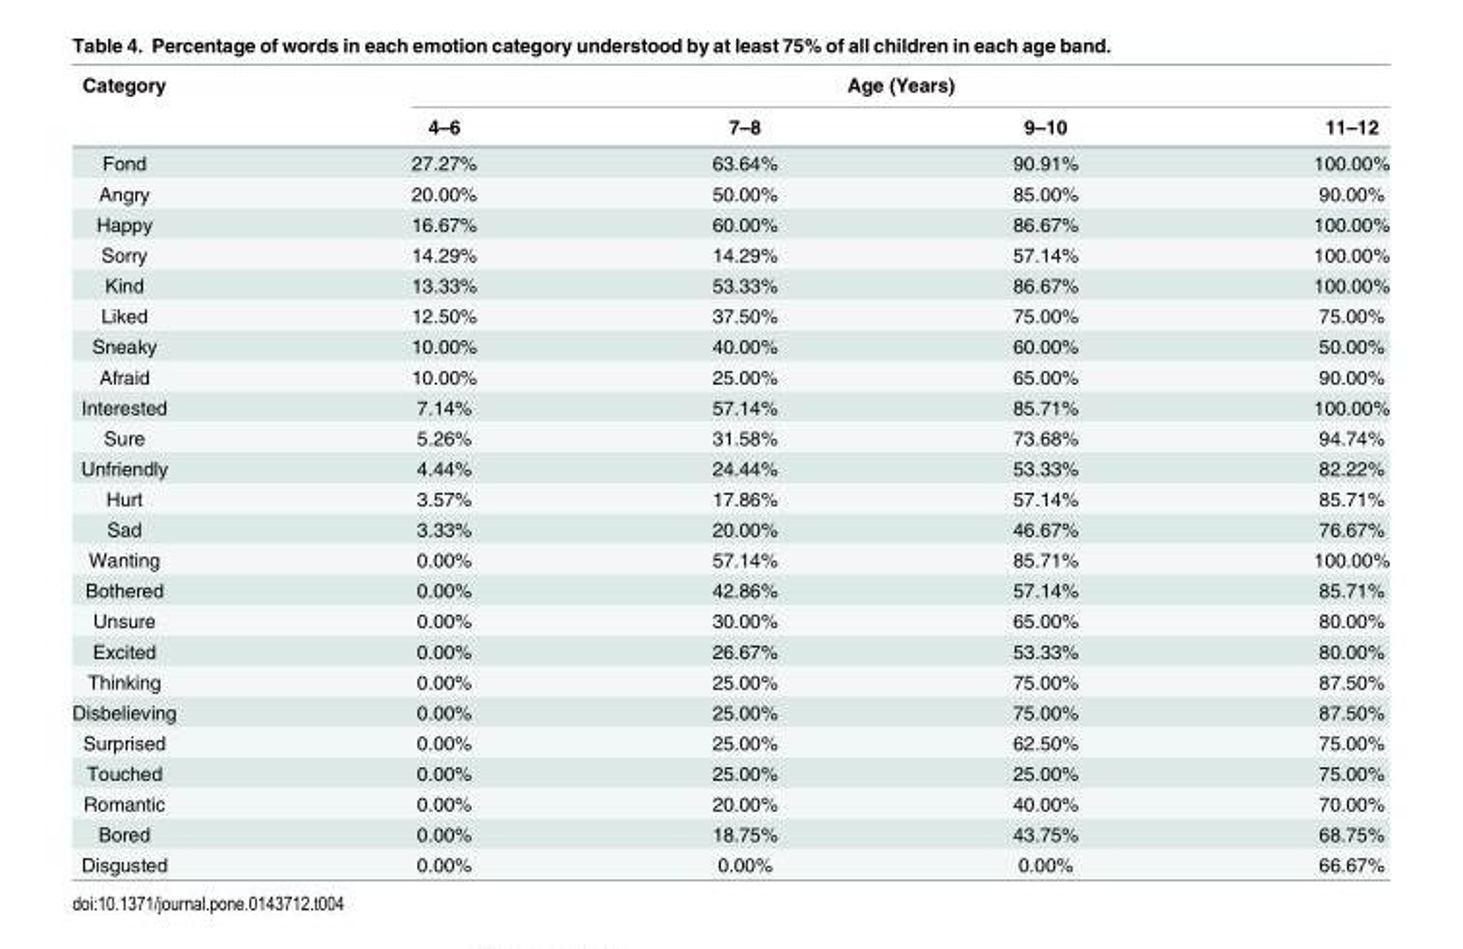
<table><thead><tr><td rowspan="2">Category</td><td colspan="4">Age (Years)</td></tr><tr><td>4–6</td><td>7–8</td><td>9–10</td><td>11–12</td></tr></thead><tbody><tr><td>Fond</td><td>27.27%</td><td>63.64%</td><td>90.91%</td><td>100.00%</td></tr><tr><td>Angry</td><td>20.00%</td><td>50.00%</td><td>85.00%</td><td>90.00%</td></tr><tr><td>Happy</td><td>16.67%</td><td>60.00%</td><td>86.67%</td><td>100.00%</td></tr><tr><td>Sorry</td><td>14.29%</td><td>14.29%</td><td>57.14%</td><td>100.00%</td></tr><tr><td>Kind</td><td>13.33%</td><td>53.33%</td><td>86.67%</td><td>100.00%</td></tr><tr><td>Liked</td><td>12.50%</td><td>37.50%</td><td>75.00%</td><td>75.00%</td></tr><tr><td>Sneaky</td><td>10.00%</td><td>40.00%</td><td>60.00%</td><td>50.00%</td></tr><tr><td>Afraid</td><td>10.00%</td><td>25.00%</td><td>65.00%</td><td>90.00%</td></tr><tr><td>Interested</td><td>7.14%</td><td>57.14%</td><td>85.71%</td><td>100.00%</td></tr><tr><td>Sure</td><td>5.26%</td><td>31.58%</td><td>73.68%</td><td>94.74%</td></tr><tr><td>Unfriendly</td><td>4.44%</td><td>24.44%</td><td>53.33%</td><td>82.22%</td></tr><tr><td>Hurt</td><td>3.57%</td><td>17.86%</td><td>57.14%</td><td>85.71%</td></tr><tr><td>Sad</td><td>3.33%</td><td>20.00%</td><td>46.67%</td><td>76.67%</td></tr><tr><td>Wanting</td><td>0.00%</td><td>57.14%</td><td>85.71%</td><td>100.00%</td></tr><tr><td>Bothered</td><td>0.00%</td><td>42.86%</td><td>57.14%</td><td>85.71%</td></tr><tr><td>Unsure</td><td>0.00%</td><td>30.00%</td><td>65.00%</td><td>80.00%</td></tr><tr><td>Excited</td><td>0.00%</td><td>26.67%</td><td>53.33%</td><td>80.00%</td></tr><tr><td>Thinking</td><td>0.00%</td><td>25.00%</td><td>75.00%</td><td>87.50%</td></tr><tr><td>Disbelieving</td><td>0.00%</td><td>25.00%</td><td>75.00%</td><td>87.50%</td></tr><tr><td>Surprised</td><td>0.00%</td><td>25.00%</td><td>62.50%</td><td>75.00%</td></tr><tr><td>Touched</td><td>0.00%</td><td>25.00%</td><td>25.00%</td><td>75.00%</td></tr><tr><td>Romantic</td><td>0.00%</td><td>20.00%</td><td>40.00%</td><td>70.00%</td></tr><tr><td>Bored</td><td>0.00%</td><td>18.75%</td><td>43.75%</td><td>68.75%</td></tr><tr><td>Disgusted</td><td>0.00%</td><td>0.00%</td><td>0.00%</td><td>66.67%</td></tr></tbody></table>